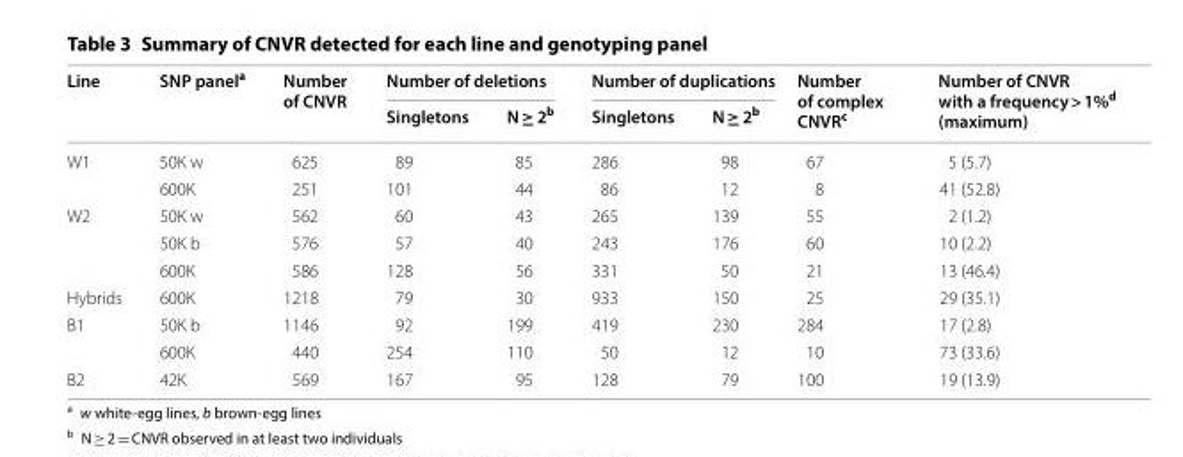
<table><thead><tr><td rowspan="2">Line</td><td rowspan="2">SNP panel<sup>a</sup></td><td rowspan="2">Number of CNVR</td><td colspan="2">Number of deletions</td><td colspan="2">Number of duplications</td><td rowspan="2">Number of complex CNVR<sup>c</sup></td><td rowspan="2">Number of CNVR with a frequency &gt; 1%<sup>d</sup> (maximum)</td></tr><tr><td>Singletons</td><td>N ≥ 2<sup>b</sup></td><td>Singletons</td><td>N ≥ 2<sup>b</sup></td></tr></thead><tbody><tr><td rowspan="2">W1</td><td>50K w</td><td>625</td><td>89</td><td>85</td><td>286</td><td>98</td><td>67</td><td>5 (5.7)</td></tr><tr><td>600K</td><td>251</td><td>101</td><td>44</td><td>86</td><td>12</td><td>8</td><td>41 (52.8)</td></tr><tr><td rowspan="3">W2</td><td>50K w</td><td>562</td><td>60</td><td>43</td><td>265</td><td>139</td><td>55</td><td>2 (1.2)</td></tr><tr><td>50K b</td><td>576</td><td>57</td><td>40</td><td>243</td><td>176</td><td>60</td><td>10 (2.2)</td></tr><tr><td>600K</td><td>586</td><td>128</td><td>56</td><td>331</td><td>50</td><td>21</td><td>13 (46.4)</td></tr><tr><td>Hybrids</td><td>600K</td><td>1218</td><td>79</td><td>30</td><td>933</td><td>150</td><td>25</td><td>29 (35.1)</td></tr><tr><td rowspan="2">B1</td><td>50K b</td><td>1146</td><td>92</td><td>199</td><td>419</td><td>230</td><td>284</td><td>17 (2.8)</td></tr><tr><td>600K</td><td>440</td><td>254</td><td>110</td><td>50</td><td>12</td><td>10</td><td>73 (33.6)</td></tr><tr><td>B2</td><td>42K</td><td>569</td><td>167</td><td>95</td><td>128</td><td>79</td><td>100</td><td>19 (13.9)</td></tr></tbody></table>